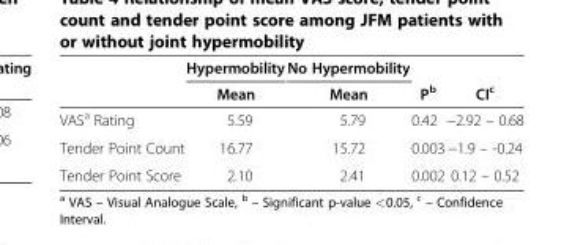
<table><thead><tr><td rowspan="2"></td><td rowspan="2">Hypermobility Mean</td><td rowspan="2">No Hypermobility Mean</td><td rowspan="2">P<sup>b</sup></td><td rowspan="2">CI<sup>c</sup></td></tr><tr></tr></thead><tbody><tr><td>VAS<sup>a</sup> Rating</td><td>5.59</td><td>5.79</td><td>0.42</td><td>−2.92 – 0.68</td></tr><tr><td>Tender Point Count</td><td>16.77</td><td>15.72</td><td>0.003</td><td>−1.9 – -0.24</td></tr><tr><td>Tender Point Score</td><td>2.10</td><td>2.41</td><td>0.002</td><td>0.12 – 0.52</td></tr></tbody></table>